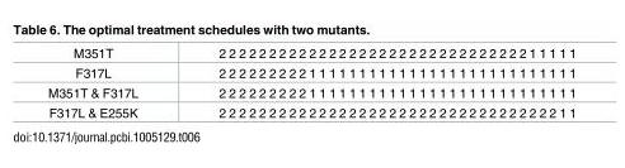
<table><tbody><tr><td>M351T</td><td>2 2 2 2 2 2 2 2 2 2 2 2 2 2 2 2 2 2 2 2 2 2 2 2 2 2 2 2 2 2 2 1 1 1 1 1</td></tr><tr><td>F317L</td><td>2 2 2 2 2 2 2 2 2 1 1 1 1 1 1 1 1 1 1 1 1 1 1 1 1 1 1 1 1 1 1 1 1 1 1 1</td></tr><tr><td>M351T &amp; F317L</td><td>2 2 2 2 2 2 2 2 2 1 1 1 1 1 1 1 1 1 1 1 1 1 1 1 1 1 1 1 1 1 1 1 1 1 1 1</td></tr><tr><td>F317L &amp; E255K</td><td>2 2 2 2 2 2 2 2 2 2 2 2 2 2 2 2 2 2 2 2 2 2 2 2 2 2 2 2 2 2 2 2 2 2 1 1</td></tr></tbody></table>